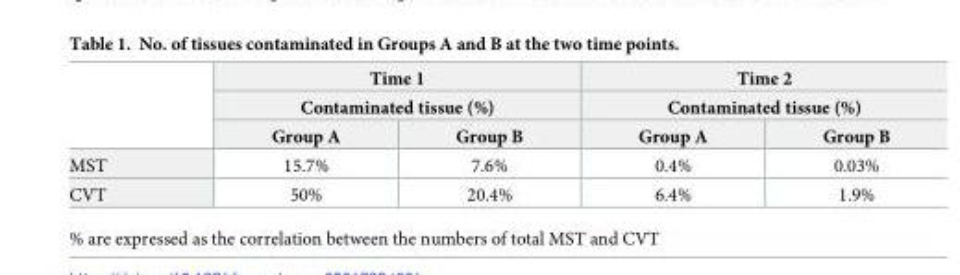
<table><thead><tr><td rowspan="3"></td><td rowspan="2" colspan="2">Time 1 Contaminated tissue (%)</td><td rowspan="2" colspan="2">Time 2 Contaminated tissue (%)</td></tr><tr></tr><tr><td>Group A</td><td>Group B</td><td>Group A</td><td>Group B</td></tr></thead><tbody><tr><td>MST</td><td>15.7%</td><td>7.6%</td><td>0.4%</td><td>0.03%</td></tr><tr><td>CVT</td><td>50%</td><td>20.4%</td><td>6.4%</td><td>1.9%</td></tr></tbody></table>